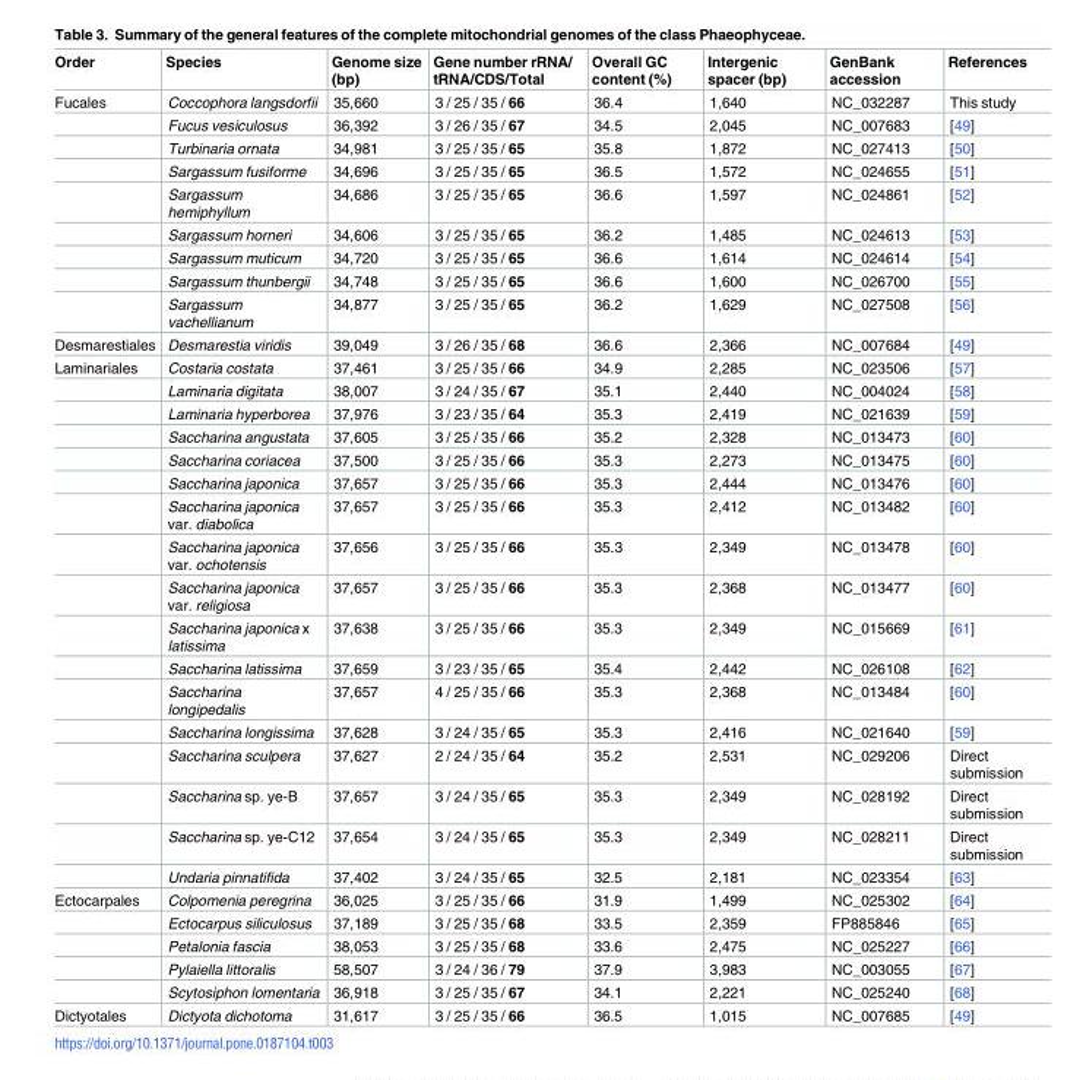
<table><thead><tr><td>Order</td><td>Species</td><td>Genome size (bp)</td><td>Gene number rRNA/ tRNA/CDS/Total</td><td>Overall GC content (%)</td><td>Intergenic spacer (bp)</td><td>GenBank accession</td><td>References</td></tr></thead><tbody><tr><td rowspan="9">Fucales</td><td>Coccophora langsdorfii</td><td>35,660</td><td>3 / 25 / 35 / 66</td><td>36.4</td><td>1,640</td><td>NC_032287</td><td>This study</td></tr><tr><td>Fucus vesiculosus</td><td>36,392</td><td>3 / 26 / 35 / 67</td><td>34.5</td><td>2,045</td><td>NC_007683</td><td>[49]</td></tr><tr><td>Turbinaria ornata</td><td>34,981</td><td>3 / 25 / 35 / 65</td><td>35.8</td><td>1,872</td><td>NC_027413</td><td>[50]</td></tr><tr><td>Sargassum fusiforme</td><td>34,696</td><td>3 / 25 / 35 / 65</td><td>36.5</td><td>1,572</td><td>NC_024655</td><td>[51]</td></tr><tr><td>Sargassum hemiphyllum</td><td>34,686</td><td>3 / 25 / 35 / 65</td><td>36.6</td><td>1,597</td><td>NC_024861</td><td>[52]</td></tr><tr><td>Sargassum horneri</td><td>34,606</td><td>3 / 25 / 35 / 65</td><td>36.2</td><td>1,485</td><td>NC_024613</td><td>[53]</td></tr><tr><td>Sargassum muticum</td><td>34,720</td><td>3 / 25 / 35 / 65</td><td>36.6</td><td>1,614</td><td>NC_024614</td><td>[54]</td></tr><tr><td>Sargassum thunbergii</td><td>34,748</td><td>3 / 25 / 35 / 65</td><td>36.6</td><td>1,600</td><td>NC_026700</td><td>[55]</td></tr><tr><td>Sargassum vachellianum</td><td>34,877</td><td>3 / 25 / 35 / 65</td><td>36.2</td><td>1,629</td><td>NC_027508</td><td>[56]</td></tr><tr><td>Desmarestiales</td><td>Desmarestia viridis</td><td>39,049</td><td>3 / 26 / 35 / 68</td><td>36.6</td><td>2,366</td><td>NC_007684</td><td>[49]</td></tr><tr><td rowspan="17">Laminariales</td><td>Costaria costata</td><td>37,461</td><td>3 / 25 / 35 / 66</td><td>34.9</td><td>2,285</td><td>NC_023506</td><td>[57]</td></tr><tr><td>Laminaria digitata</td><td>38,007</td><td>3 / 24 / 35 / 67</td><td>35.1</td><td>2,440</td><td>NC_004024</td><td>[58]</td></tr><tr><td>Laminaria hyperborea</td><td>37,976</td><td>3 / 23 / 35 / 64</td><td>35.3</td><td>2,419</td><td>NC_021639</td><td>[59]</td></tr><tr><td>Saccharina angustata</td><td>37,605</td><td>3 / 25 / 35 / 66</td><td>35.2</td><td>2,328</td><td>NC_013473</td><td>[60]</td></tr><tr><td>Saccharina coriacea</td><td>37,500</td><td>3 / 25 / 35 / 66</td><td>35.3</td><td>2,273</td><td>NC_013475</td><td>[60]</td></tr><tr><td>Saccharina japonica</td><td>37,657</td><td>3 / 25 / 35 / 66</td><td>35.3</td><td>2,444</td><td>NC_013476</td><td>[60]</td></tr><tr><td>Saccharina japonica var. diabolica</td><td>37,657</td><td>3 / 25 / 35 / 66</td><td>35.3</td><td>2,412</td><td>NC_013482</td><td>[60]</td></tr><tr><td>Saccharina japonica var. ochotensis</td><td>37,656</td><td>3 / 25 / 35 / 66</td><td>35.3</td><td>2,349</td><td>NC_013478</td><td>[60]</td></tr><tr><td>Saccharina japonica var. religiosa</td><td>37,657</td><td>3 / 25 / 35 / 66</td><td>35.3</td><td>2,368</td><td>NC_013477</td><td>[60]</td></tr><tr><td>Saccharina japonica x latissima</td><td>37,638</td><td>3 / 25 / 35 / 66</td><td>35.3</td><td>2,349</td><td>NC_015669</td><td>[61]</td></tr><tr><td>Saccharina latissima</td><td>37,659</td><td>3 / 23 / 35 / 65</td><td>35.4</td><td>2,442</td><td>NC_026108</td><td>[62]</td></tr><tr><td>Saccharina longipedalis</td><td>37,657</td><td>4 / 25 / 35 / 66</td><td>35.3</td><td>2,368</td><td>NC_013484</td><td>[60]</td></tr><tr><td>Saccharina longissima</td><td>37,628</td><td>3 / 24 / 35 / 65</td><td>35.3</td><td>2,416</td><td>NC_021640</td><td>[59]</td></tr><tr><td>Saccharina sculpera</td><td>37,627</td><td>2 / 24 / 35 / 64</td><td>35.2</td><td>2,531</td><td>NC_029206</td><td>Direct submission</td></tr><tr><td>Saccharina sp. ye-B</td><td>37,657</td><td>3 / 24 / 35 / 65</td><td>35.3</td><td>2,349</td><td>NC_028192</td><td>Direct submission</td></tr><tr><td>Saccharina sp. ye-C12</td><td>37,654</td><td>3 / 24 / 35 / 65</td><td>35.3</td><td>2,349</td><td>NC_028211</td><td>Direct submission</td></tr><tr><td>Undaria pinnatifida</td><td>37,402</td><td>3 / 24 / 35 / 65</td><td>32.5</td><td>2,181</td><td>NC_023354</td><td>[63]</td></tr><tr><td rowspan="5">Ectocarpales</td><td>Colpomenia peregrina</td><td>36,025</td><td>3 / 25 / 35 / 66</td><td>31.9</td><td>1,499</td><td>NC_025302</td><td>[64]</td></tr><tr><td>Ectocarpus siliculosus</td><td>37,189</td><td>3 / 25 / 35 / 68</td><td>33.5</td><td>2,359</td><td>FP885846</td><td>[65]</td></tr><tr><td>Petalonia fascia</td><td>38,053</td><td>3 / 25 / 35 / 68</td><td>33.6</td><td>2,475</td><td>NC_025227</td><td>[66]</td></tr><tr><td>Pylaiella littoralis</td><td>58,507</td><td>3 / 24 / 36 / 79</td><td>37.9</td><td>3,983</td><td>NC_003055</td><td>[67]</td></tr><tr><td>Scytosiphon lomentaria</td><td>36,918</td><td>3 / 25 / 35 / 67</td><td>34.1</td><td>2,221</td><td>NC_025240</td><td>[68]</td></tr><tr><td>Dictyotales</td><td>Dictyota dichotoma</td><td>31,617</td><td>3 / 25 / 35 / 66</td><td>36.5</td><td>1,015</td><td>NC_007685</td><td>[49]</td></tr></tbody></table>